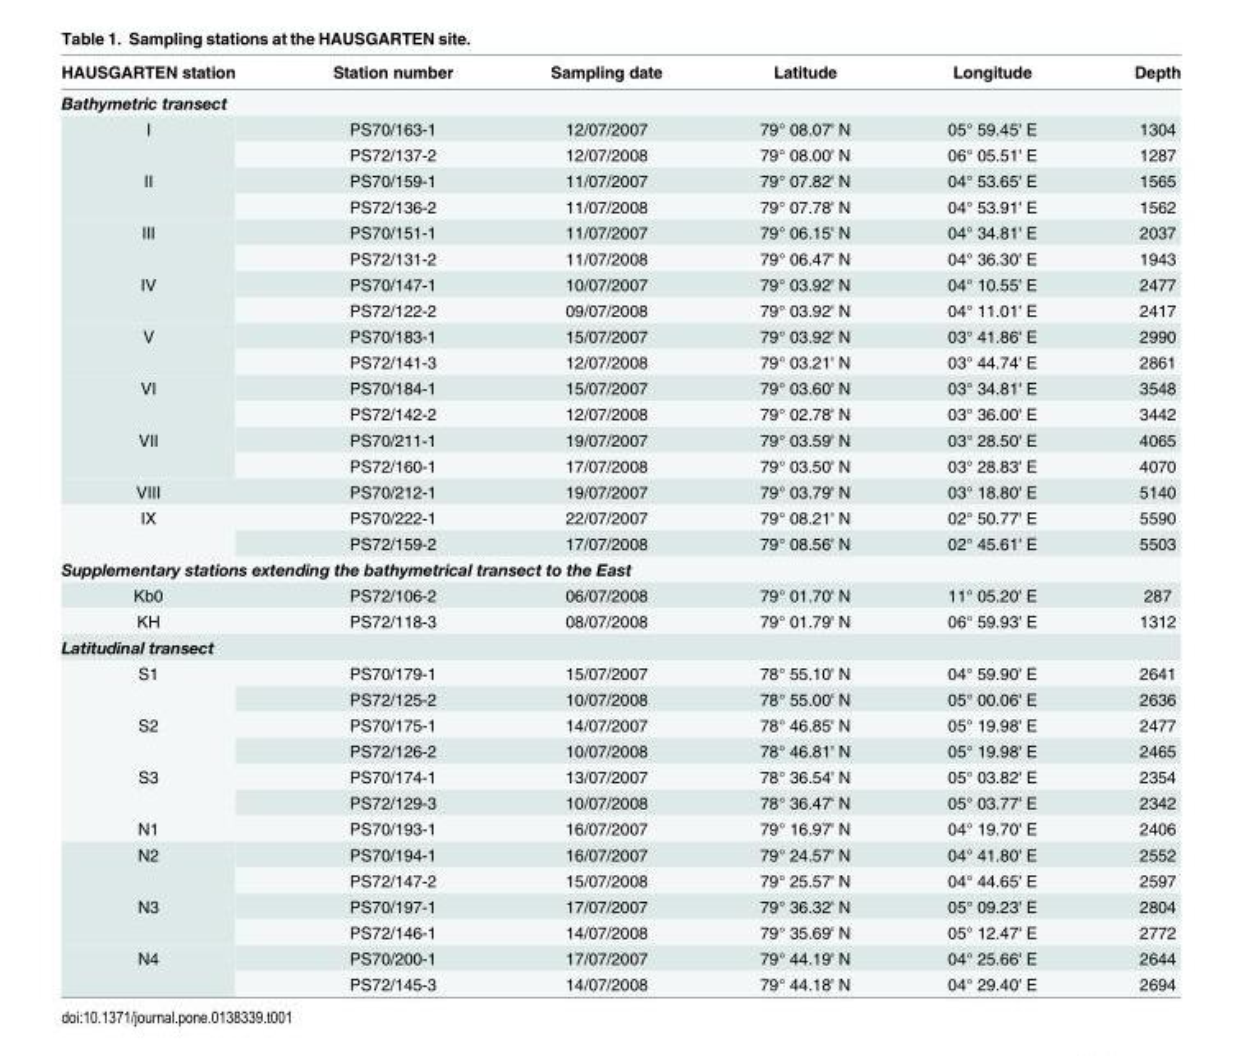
<table><thead><tr><td>HAUSGARTEN station</td><td>Station number</td><td>Sampling date</td><td>Latitude</td><td>Longitude</td><td>Depth</td></tr></thead><tbody><tr><td colspan="6">Bathymetric transect</td></tr><tr><td rowspan="2">I</td><td>PS70/163-1</td><td>12/07/2007</td><td>79° 08.07&#x27; N</td><td>05° 59.45&#x27; E</td><td>1304</td></tr><tr><td>PS72/137-2</td><td>12/07/2008</td><td>79° 08.00&#x27; N</td><td>06° 05.51&#x27; E</td><td>1287</td></tr><tr><td rowspan="2">II</td><td>PS70/159-1</td><td>11/07/2007</td><td>79° 07.82&#x27; N</td><td>04° 53.65&#x27; E</td><td>1565</td></tr><tr><td>PS72/136-2</td><td>11/07/2008</td><td>79° 07.78&#x27; N</td><td>04° 53.91&#x27; E</td><td>1562</td></tr><tr><td rowspan="2">III</td><td>PS70/151-1</td><td>11/07/2007</td><td>79° 06.15&#x27; N</td><td>04° 34.81&#x27; E</td><td>2037</td></tr><tr><td>PS72/131-2</td><td>11/07/2008</td><td>79° 06.47&#x27; N</td><td>04° 36.30&#x27; E</td><td>1943</td></tr><tr><td rowspan="2">IV</td><td>PS70/147-1</td><td>10/07/2007</td><td>79° 03.92&#x27; N</td><td>04° 10.55&#x27; E</td><td>2477</td></tr><tr><td>PS72/122-2</td><td>09/07/2008</td><td>79° 03.92&#x27; N</td><td>04° 11.01&#x27; E</td><td>2417</td></tr><tr><td rowspan="2">V</td><td>PS70/183-1</td><td>15/07/2007</td><td>79° 03.92&#x27; N</td><td>03° 41.86&#x27; E</td><td>2990</td></tr><tr><td>PS72/141-3</td><td>12/07/2008</td><td>79° 03.21&#x27; N</td><td>03° 44.74&#x27; E</td><td>2861</td></tr><tr><td rowspan="2">VI</td><td>PS70/184-1</td><td>15/07/2007</td><td>79° 03.60&#x27; N</td><td>03° 34.81&#x27; E</td><td>3548</td></tr><tr><td>PS72/142-2</td><td>12/07/2008</td><td>79° 02.78&#x27; N</td><td>03° 36.00&#x27; E</td><td>3442</td></tr><tr><td rowspan="2">VII</td><td>PS70/211-1</td><td>19/07/2007</td><td>79° 03.59&#x27; N</td><td>03° 28.50&#x27; E</td><td>4065</td></tr><tr><td>PS72/160-1</td><td>17/07/2008</td><td>79° 03.50&#x27; N</td><td>03° 28.83&#x27; E</td><td>4070</td></tr><tr><td>VIII</td><td>PS70/212-1</td><td>19/07/2007</td><td>79° 03.79&#x27; N</td><td>03° 18.80&#x27; E</td><td>5140</td></tr><tr><td rowspan="2">IX</td><td>PS70/222-1</td><td>22/07/2007</td><td>79° 08.21&#x27; N</td><td>02° 50.77&#x27; E</td><td>5590</td></tr><tr><td>PS72/159-2</td><td>17/07/2008</td><td>79° 08.56&#x27; N</td><td>02° 45.61&#x27; E</td><td>5503</td></tr><tr><td colspan="6">Supplementary stations extending the bathymetrical transect to the East</td></tr><tr><td>Kb0</td><td>PS72/106-2</td><td>06/07/2008</td><td>79° 01.70&#x27; N</td><td>11° 05.20&#x27; E</td><td>287</td></tr><tr><td>KH</td><td>PS72/118-3</td><td>08/07/2008</td><td>79° 01.79&#x27; N</td><td>06° 59.93&#x27; E</td><td>1312</td></tr><tr><td colspan="6">Latitudinal transect</td></tr><tr><td rowspan="2">S1</td><td>PS70/179-1</td><td>15/07/2007</td><td>78° 55.10&#x27; N</td><td>04° 59.90&#x27; E</td><td>2641</td></tr><tr><td>PS72/125-2</td><td>10/07/2008</td><td>78° 55.00&#x27; N</td><td>05° 00.06&#x27; E</td><td>2636</td></tr><tr><td rowspan="2">S2</td><td>PS70/175-1</td><td>14/07/2007</td><td>78° 46.85&#x27; N</td><td>05° 19.98&#x27; E</td><td>2477</td></tr><tr><td>PS72/126-2</td><td>10/07/2008</td><td>78° 46.81&#x27; N</td><td>05° 19.98&#x27; E</td><td>2465</td></tr><tr><td rowspan="2">S3</td><td>PS70/174-1</td><td>13/07/2007</td><td>78° 36.54&#x27; N</td><td>05° 03.82&#x27; E</td><td>2354</td></tr><tr><td>PS72/129-3</td><td>10/07/2008</td><td>78° 36.47&#x27; N</td><td>05° 03.77&#x27; E</td><td>2342</td></tr><tr><td>N1</td><td>PS70/193-1</td><td>16/07/2007</td><td>79° 16.97&#x27; N</td><td>04° 19.70&#x27; E</td><td>2406</td></tr><tr><td rowspan="2">N2</td><td>PS70/194-1</td><td>16/07/2007</td><td>79° 24.57&#x27; N</td><td>04° 41.80&#x27; E</td><td>2552</td></tr><tr><td>PS72/147-2</td><td>15/07/2008</td><td>79° 25.57&#x27; N</td><td>04° 44.65&#x27; E</td><td>2597</td></tr><tr><td rowspan="2">N3</td><td>PS70/197-1</td><td>17/07/2007</td><td>79° 36.32&#x27; N</td><td>05° 09.23&#x27; E</td><td>2804</td></tr><tr><td>PS72/146-1</td><td>14/07/2008</td><td>79° 35.69&#x27; N</td><td>05° 12.47&#x27; E</td><td>2772</td></tr><tr><td rowspan="2">N4</td><td>PS70/200-1</td><td>17/07/2007</td><td>79° 44.19&#x27; N</td><td>04° 25.66&#x27; E</td><td>2644</td></tr><tr><td>PS72/145-3</td><td>14/07/2008</td><td>79° 44.18&#x27; N</td><td>04° 29.40&#x27; E</td><td>2694</td></tr></tbody></table>